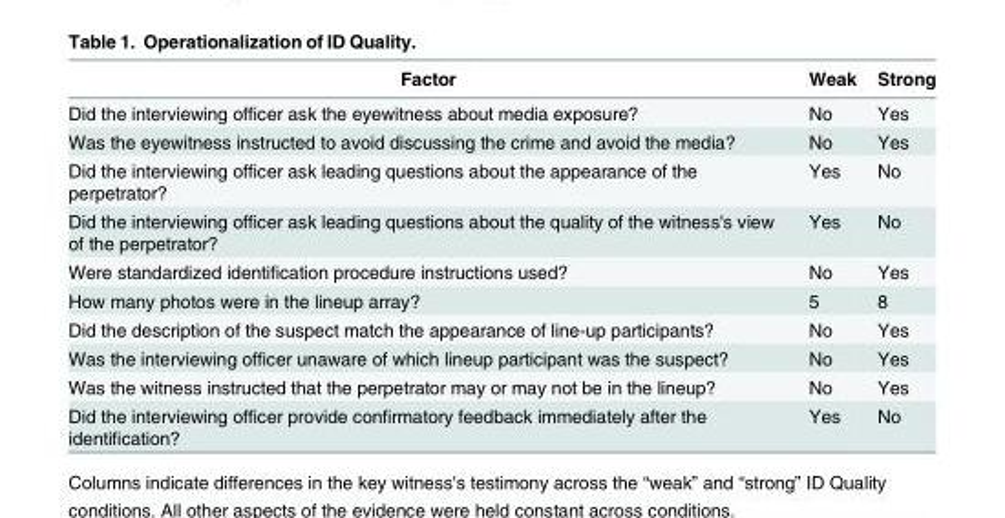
<table><thead><tr><td>Factor</td><td>Weak</td><td>Strong</td></tr></thead><tbody><tr><td>Did the interviewing officer ask the eyewitness about media exposure?</td><td>No</td><td>Yes</td></tr><tr><td>Was the eyewitness instructed to avoid discussing the crime and avoid the media?</td><td>No</td><td>Yes</td></tr><tr><td>Did the interviewing officer ask leading questions about the appearance of the perpetrator?</td><td>Yes</td><td>No</td></tr><tr><td>Did the interviewing officer ask leading questions about the quality of the witness&#x27;s view of the perpetrator?</td><td>Yes</td><td>No</td></tr><tr><td>Were standardized identification procedure instructions used?</td><td>No</td><td>Yes</td></tr><tr><td>How many photos were in the lineup array?</td><td>5</td><td>8</td></tr><tr><td>Did the description of the suspect match the appearance of line-up participants?</td><td>No</td><td>Yes</td></tr><tr><td>Was the interviewing officer unaware of which lineup participant was the suspect?</td><td>No</td><td>Yes</td></tr><tr><td>Was the witness instructed that the perpetrator may or may not be in the lineup?</td><td>No</td><td>Yes</td></tr><tr><td>Did the interviewing officer provide confirmatory feedback immediately after the identification?</td><td>Yes</td><td>No</td></tr></tbody></table>